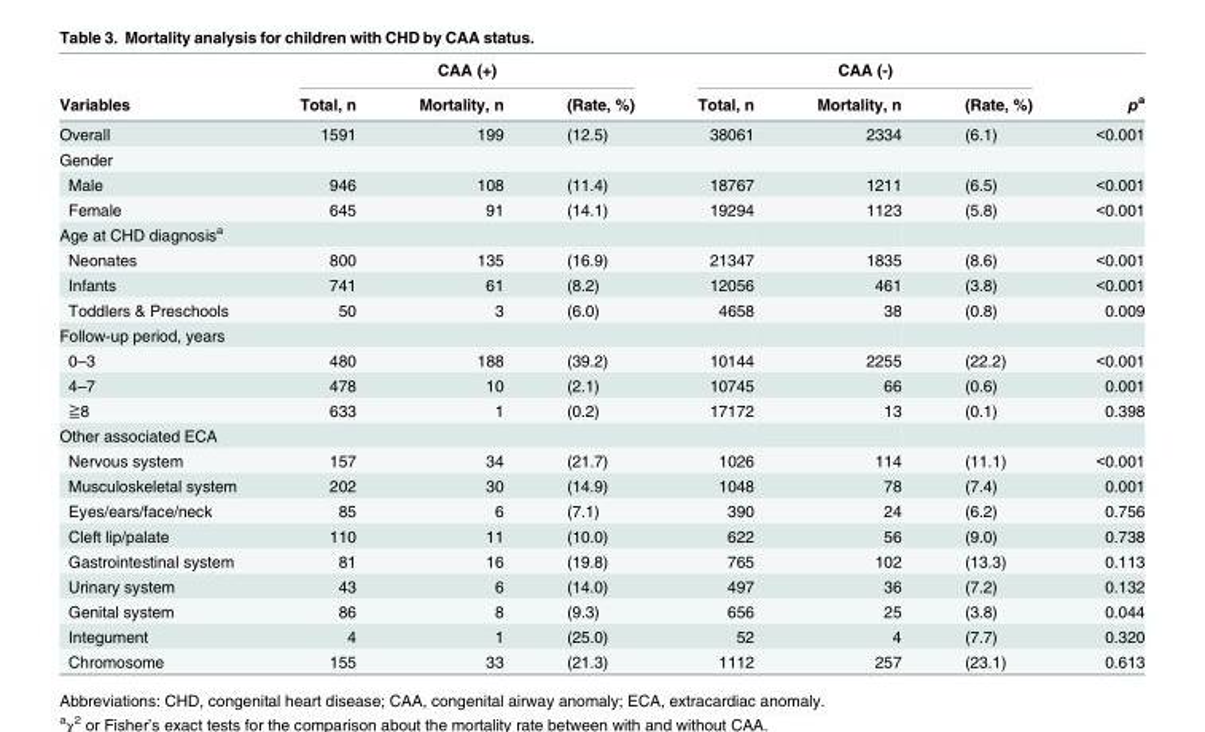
<table><thead><tr><td rowspan="2">Variables</td><td colspan="3">CAA (+)</td><td colspan="3">CAA (-)</td><td rowspan="2">p<sup>a</sup></td></tr><tr><td>Total, n</td><td>Mortality, n</td><td>(Rate, %)</td><td>Total, n</td><td>Mortality, n</td><td>(Rate, %)</td></tr></thead><tbody><tr><td>Overall</td><td>1591</td><td>199</td><td>(12.5)</td><td>38061</td><td>2334</td><td>(6.1)</td><td>&lt;0.001</td></tr><tr><td colspan="8">Gender</td></tr><tr><td>Male</td><td>946</td><td>108</td><td>(11.4)</td><td>18767</td><td>1211</td><td>(6.5)</td><td>&lt;0.001</td></tr><tr><td>Female</td><td>645</td><td>91</td><td>(14.1)</td><td>19294</td><td>1123</td><td>(5.8)</td><td>&lt;0.001</td></tr><tr><td colspan="8">Age at CHD diagnosis<sup>a</sup></td></tr><tr><td>Neonates</td><td>800</td><td>135</td><td>(16.9)</td><td>21347</td><td>1835</td><td>(8.6)</td><td>&lt;0.001</td></tr><tr><td>Infants</td><td>741</td><td>61</td><td>(8.2)</td><td>12056</td><td>461</td><td>(3.8)</td><td>&lt;0.001</td></tr><tr><td>Toddlers &amp; Preschools</td><td>50</td><td>3</td><td>(6.0)</td><td>4658</td><td>38</td><td>(0.8)</td><td>0.009</td></tr><tr><td colspan="8">Follow-up period, years</td></tr><tr><td>0–3</td><td>480</td><td>188</td><td>(39.2)</td><td>10144</td><td>2255</td><td>(22.2)</td><td>&lt;0.001</td></tr><tr><td>4–7</td><td>478</td><td>10</td><td>(2.1)</td><td>10745</td><td>66</td><td>(0.6)</td><td>0.001</td></tr><tr><td>≧8</td><td>633</td><td>1</td><td>(0.2)</td><td>17172</td><td>13</td><td>(0.1)</td><td>0.398</td></tr><tr><td colspan="8">Other associated ECA</td></tr><tr><td>Nervous system</td><td>157</td><td>34</td><td>(21.7)</td><td>1026</td><td>114</td><td>(11.1)</td><td>&lt;0.001</td></tr><tr><td>Musculoskeletal system</td><td>202</td><td>30</td><td>(14.9)</td><td>1048</td><td>78</td><td>(7.4)</td><td>0.001</td></tr><tr><td>Eyes/ears/face/neck</td><td>85</td><td>6</td><td>(7.1)</td><td>390</td><td>24</td><td>(6.2)</td><td>0.756</td></tr><tr><td>Cleft lip/palate</td><td>110</td><td>11</td><td>(10.0)</td><td>622</td><td>56</td><td>(9.0)</td><td>0.738</td></tr><tr><td>Gastrointestinal system</td><td>81</td><td>16</td><td>(19.8)</td><td>765</td><td>102</td><td>(13.3)</td><td>0.113</td></tr><tr><td>Urinary system</td><td>43</td><td>6</td><td>(14.0)</td><td>497</td><td>36</td><td>(7.2)</td><td>0.132</td></tr><tr><td>Genital system</td><td>86</td><td>8</td><td>(9.3)</td><td>656</td><td>25</td><td>(3.8)</td><td>0.044</td></tr><tr><td>Integument</td><td>4</td><td>1</td><td>(25.0)</td><td>52</td><td>4</td><td>(7.7)</td><td>0.320</td></tr><tr><td>Chromosome</td><td>155</td><td>33</td><td>(21.3)</td><td>1112</td><td>257</td><td>(23.1)</td><td>0.613</td></tr></tbody></table>